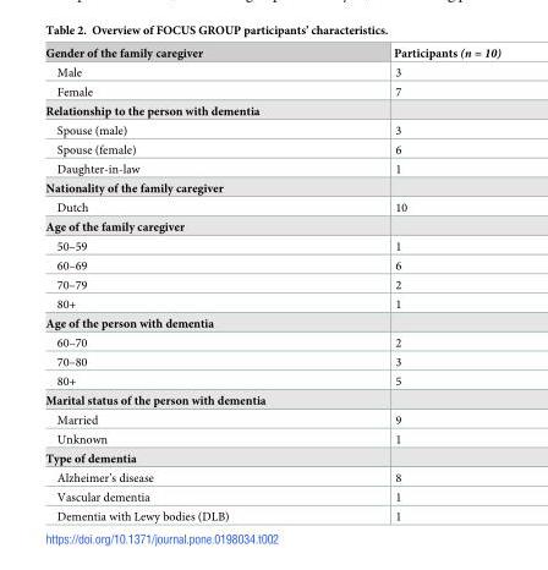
<table><thead><tr><td>Gender of the family caregiver</td><td>Participants (n = 10)</td></tr></thead><tbody><tr><td>Male</td><td>3</td></tr><tr><td>Female</td><td>7</td></tr><tr><td colspan="2">Relationship to the person with dementia</td></tr><tr><td>Spouse (male)</td><td>3</td></tr><tr><td>Spouse (female)</td><td>6</td></tr><tr><td>Daughter-in-law</td><td>1</td></tr><tr><td colspan="2">Nationality of the family caregiver</td></tr><tr><td>Dutch</td><td>10</td></tr><tr><td colspan="2">Age of the family caregiver</td></tr><tr><td>50–59</td><td>1</td></tr><tr><td>60–69</td><td>6</td></tr><tr><td>70–79</td><td>2</td></tr><tr><td>80+</td><td>1</td></tr><tr><td colspan="2">Age of the person with dementia</td></tr><tr><td>60–70</td><td>2</td></tr><tr><td>70–80</td><td>3</td></tr><tr><td>80+</td><td>5</td></tr><tr><td colspan="2">Marital status of the person with dementia</td></tr><tr><td>Married</td><td>9</td></tr><tr><td>Unknown</td><td>1</td></tr><tr><td colspan="2">Type of dementia</td></tr><tr><td>Alzheimer’s disease</td><td>8</td></tr><tr><td>Vascular dementia</td><td>1</td></tr><tr><td>Dementia with Lewy bodies (DLB)</td><td>1</td></tr></tbody></table>